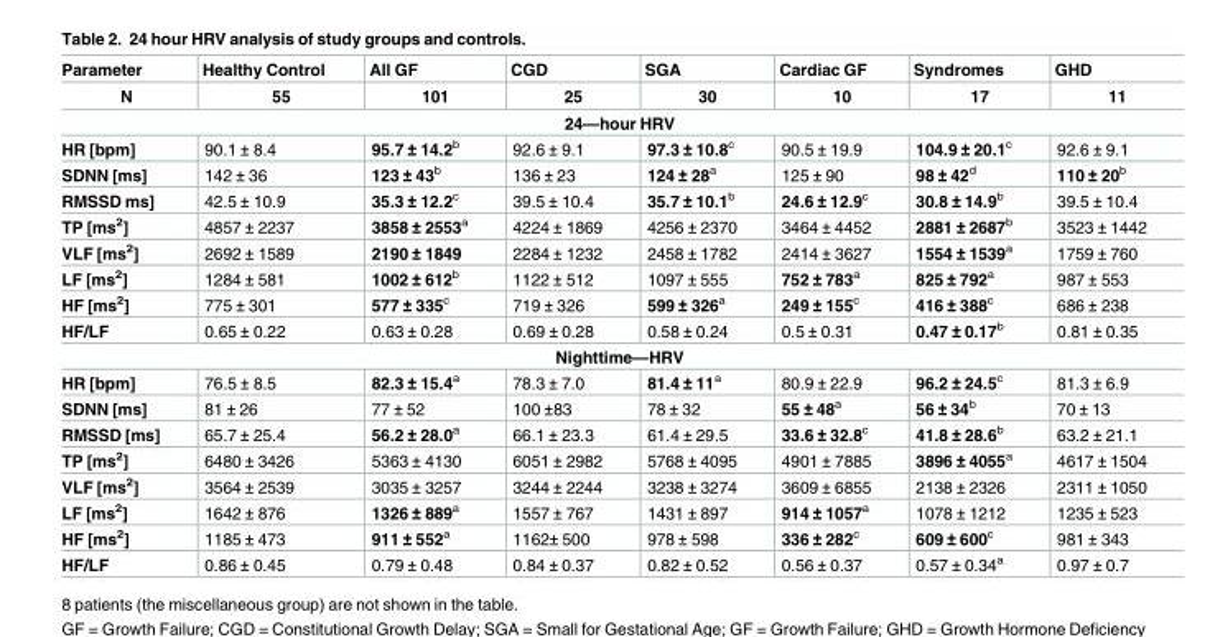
<table><thead><tr><td rowspan="2">Parameter N</td><td rowspan="2">Healthy Control 55</td><td rowspan="2">All GF 101</td><td rowspan="2">CGD 25</td><td rowspan="2">SGA 30</td><td rowspan="2">Cardiac GF 10</td><td rowspan="2">Syndromes 17</td><td rowspan="2">GHD 11</td></tr><tr></tr></thead><tbody><tr><td colspan="8">24—hour HRV</td></tr><tr><td>HR [bpm]</td><td>90.1 ± 8.4</td><td>95.7 ± 14.2<sup>b</sup></td><td>92.6 ± 9.1</td><td>97.3 ± 10.8<sup>c</sup></td><td>90.5 ± 19.9</td><td>104.9 ± 20.1<sup>c</sup></td><td>92.6 ± 9.1</td></tr><tr><td>SDNN [ms]</td><td>142 ± 36</td><td>123 ± 43<sup>b</sup></td><td>136 ± 23</td><td>124 ± 28<sup>a</sup></td><td>125 ± 90</td><td>98 ± 42<sup>d</sup></td><td>110 ± 20<sup>b</sup></td></tr><tr><td>RMSSD ms]</td><td>42.5 ± 10.9</td><td>35.3 ± 12.2<sup>c</sup></td><td>39.5 ± 10.4</td><td>35.7 ± 10.1<sup>b</sup></td><td>24.6 ± 12.9<sup>c</sup></td><td>30.8 ± 14.9<sup>b</sup></td><td>39.5 ± 10.4</td></tr><tr><td>TP [ms<sup>2</sup>]</td><td>4857 ± 2237</td><td>3858 ± 2553<sup>a</sup></td><td>4224 ± 1869</td><td>4256 ± 2370</td><td>3464 ± 4452</td><td>2881 ± 2687<sup>b</sup></td><td>3523 ± 1442</td></tr><tr><td>VLF [ms<sup>2</sup>]</td><td>2692 ± 1589</td><td>2190 ± 1849</td><td>2284 ± 1232</td><td>2458 ± 1782</td><td>2414 ± 3627</td><td>1554 ± 1539<sup>a</sup></td><td>1759 ± 760</td></tr><tr><td>LF [ms<sup>2</sup>]</td><td>1284 ± 581</td><td>1002 ± 612<sup>b</sup></td><td>1122 ± 512</td><td>1097 ± 555</td><td>752 ± 783<sup>a</sup></td><td>825 ± 792<sup>a</sup></td><td>987 ± 553</td></tr><tr><td>HF [ms<sup>2</sup>]</td><td>775 ± 301</td><td>577 ± 335<sup>c</sup></td><td>719 ± 326</td><td>599 ± 326<sup>a</sup></td><td>249 ± 155<sup>c</sup></td><td>416 ± 388<sup>c</sup></td><td>686 ± 238</td></tr><tr><td>HF/LF</td><td>0.65 ± 0.22</td><td>0.63 ± 0.28</td><td>0.69 ± 0.28</td><td>0.58 ± 0.24</td><td>0.5 ± 0.31</td><td>0.47 ± 0.17<sup>b</sup></td><td>0.81 ± 0.35</td></tr><tr><td colspan="8">Nighttime—HRV</td></tr><tr><td>HR [bpm]</td><td>76.5 ± 8.5</td><td>82.3 ± 15.4<sup>a</sup></td><td>78.3 ± 7.0</td><td>81.4 ± 11<sup>a</sup></td><td>80.9 ± 22.9</td><td>96.2 ± 24.5<sup>c</sup></td><td>81.3 ± 6.9</td></tr><tr><td>SDNN [ms]</td><td>81 ± 26</td><td>77 ± 52</td><td>100 ±83</td><td>78 ± 32</td><td>55 ± 48<sup>a</sup></td><td>56 ± 34<sup>b</sup></td><td>70 ± 13</td></tr><tr><td>RMSSD [ms]</td><td>65.7 ± 25.4</td><td>56.2 ± 28.0<sup>a</sup></td><td>66.1 ± 23.3</td><td>61.4 ± 29.5</td><td>33.6 ± 32.8<sup>c</sup></td><td>41.8 ± 28.6<sup>b</sup></td><td>63.2 ± 21.1</td></tr><tr><td>TP [ms<sup>2</sup>]</td><td>6480 ± 3426</td><td>5363 ± 4130</td><td>6051 ± 2982</td><td>5768 ± 4095</td><td>4901 ± 7885</td><td>3896 ± 4055<sup>a</sup></td><td>4617 ± 1504</td></tr><tr><td>VLF [ms<sup>2</sup>]</td><td>3564 ± 2539</td><td>3035 ± 3257</td><td>3244 ± 2244</td><td>3238 ± 3274</td><td>3609 ± 6855</td><td>2138 ± 2326</td><td>2311 ± 1050</td></tr><tr><td>LF [ms<sup>2</sup>]</td><td>1642 ± 876</td><td>1326 ± 889<sup>a</sup></td><td>1557 ± 767</td><td>1431 ± 897</td><td>914 ± 1057<sup>a</sup></td><td>1078 ± 1212</td><td>1235 ± 523</td></tr><tr><td>HF [ms<sup>2</sup>]</td><td>1185 ± 473</td><td>911 ± 552<sup>a</sup></td><td>1162± 500</td><td>978 ± 598</td><td>336 ± 282<sup>c</sup></td><td>609 ± 600<sup>c</sup></td><td>981 ± 343</td></tr><tr><td>HF/LF</td><td>0.86 ± 0.45</td><td>0.79 ± 0.48</td><td>0.84 ± 0.37</td><td>0.82 ± 0.52</td><td>0.56 ± 0.37</td><td>0.57 ± 0.34<sup>a</sup></td><td>0.97 ± 0.7</td></tr></tbody></table>